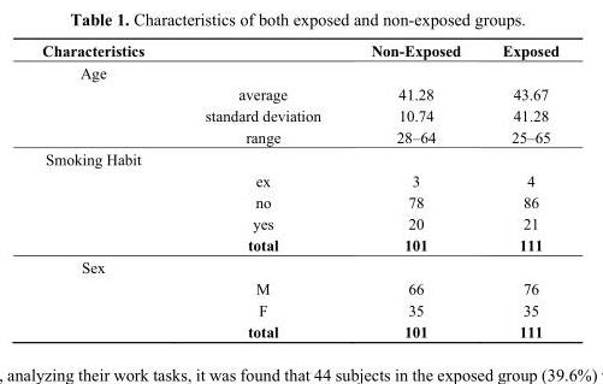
<table><thead><tr><td>Characteristics</td><td></td><td>Non-Exposed</td><td>Exposed</td></tr></thead><tbody><tr><td colspan="4">Age</td></tr><tr><td></td><td>average</td><td>41.28</td><td>43.67</td></tr><tr><td></td><td>standard deviation</td><td>10.74</td><td>41.28</td></tr><tr><td></td><td>range</td><td>28–64</td><td>25–65</td></tr><tr><td colspan="4">Smoking Habit</td></tr><tr><td></td><td>ex</td><td>3</td><td>4</td></tr><tr><td></td><td>no</td><td>78</td><td>86</td></tr><tr><td></td><td>yes</td><td>20</td><td>21</td></tr><tr><td></td><td>total</td><td>101</td><td>111</td></tr><tr><td colspan="4">Sex</td></tr><tr><td></td><td>M</td><td>66</td><td>76</td></tr><tr><td></td><td>F</td><td>35</td><td>35</td></tr><tr><td></td><td>total</td><td>101</td><td>111</td></tr></tbody></table>